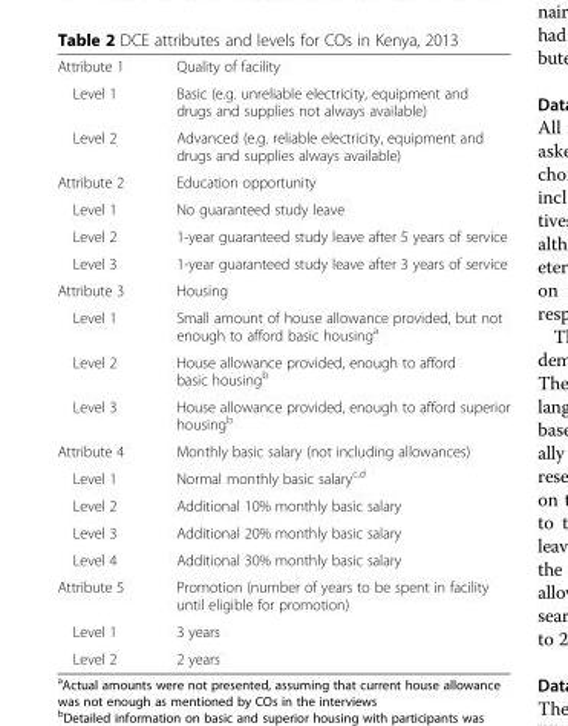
<table><tbody><tr><td>Attribute 1</td><td>Quality of facility</td></tr><tr><td>Level 1</td><td>Basic (e.g. unreliable electricity, equipment and drugs and supplies not always available)</td></tr><tr><td>Level 2</td><td>Advanced (e.g. reliable electricity, equipment and drugs and supplies always available)</td></tr><tr><td>Attribute 2</td><td>Education opportunity</td></tr><tr><td>Level 1</td><td>No guaranteed study leave</td></tr><tr><td>Level 2</td><td>1-year guaranteed study leave after 5 years of service</td></tr><tr><td>Level 3</td><td>1-year guaranteed study leave after 3 years of service</td></tr><tr><td>Attribute 3</td><td>Housing</td></tr><tr><td>Level 1</td><td>Small amount of house allowance provided, but not enough to afford basic housing<sup>a</sup></td></tr><tr><td>Level 2</td><td>House allowance provided, enough to afford basic housing<sup>b</sup></td></tr><tr><td>Level 3</td><td>House allowance provided, enough to afford superior housing<sup>b</sup></td></tr><tr><td>Attribute 4</td><td>Monthly basic salary (not including allowances)</td></tr><tr><td>Level 1</td><td>Normal monthly basic salary<sup>c,d</sup></td></tr><tr><td>Level 2</td><td>Additional 10% monthly basic salary</td></tr><tr><td>Level 3</td><td>Additional 20% monthly basic salary</td></tr><tr><td>Level 4</td><td>Additional 30% monthly basic salary</td></tr><tr><td>Attribute 5</td><td>Promotion (number of years to be spent in facility until eligible for promotion)</td></tr><tr><td>Level 1</td><td>3 years</td></tr><tr><td>Level 2</td><td>2 years</td></tr></tbody></table>